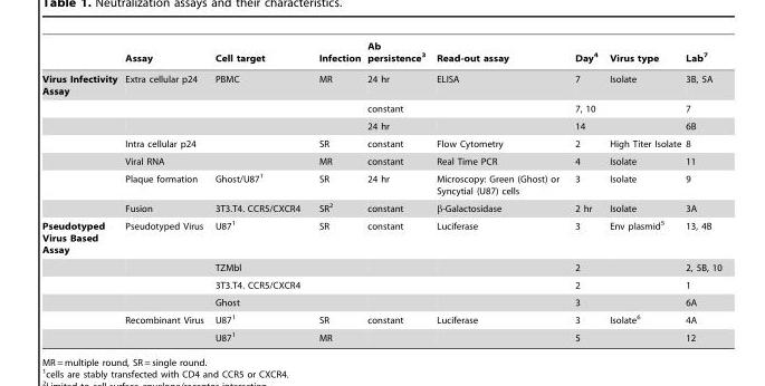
<table><thead><tr><td></td><td>Assay</td><td>Cell target</td><td>Infection</td><td>Ab persistence<sup>3</sup></td><td>Read-out assay</td><td>Day<sup>4</sup></td><td>Virus type</td><td>Lab<sup>7</sup></td></tr></thead><tbody><tr><td rowspan="7">Virus Infectivity Assay</td><td>Extra cellular p24</td><td>PBMC</td><td>MR</td><td>24 hr</td><td>ELISA</td><td>7</td><td>Isolate</td><td>3B, 5A</td></tr><tr><td></td><td></td><td></td><td>constant</td><td></td><td>7, 10</td><td></td><td>7</td></tr><tr><td></td><td></td><td></td><td>24 hr</td><td></td><td>14</td><td></td><td>6B</td></tr><tr><td>Intra cellular p24</td><td></td><td>SR</td><td>constant</td><td>Flow Cytometry</td><td>2</td><td>High Titer Isolate</td><td>8</td></tr><tr><td>Viral RNA</td><td></td><td>MR</td><td>constant</td><td>Real Time PCR</td><td>4</td><td>Isolate</td><td>11</td></tr><tr><td>Plaque formation</td><td>Ghost/U87<sup>1</sup></td><td>SR</td><td>24 hr</td><td>Microscopy: Green (Ghost) or Syncytial (U87) cells</td><td>3</td><td>Isolate</td><td>9</td></tr><tr><td>Fusion</td><td>3T3.T4. CCR5/CXCR4</td><td>SR<sup>2</sup></td><td>constant</td><td>β-Galactosidase</td><td>2 hr</td><td>Isolate</td><td>3A</td></tr><tr><td rowspan="6">Pseudotyped Virus Based Assay</td><td>Pseudotyped Virus</td><td>U87<sup>1</sup></td><td>SR</td><td>constant</td><td>Luciferase</td><td>3</td><td>Env plasmid<sup>5</sup></td><td>13, 4B</td></tr><tr><td></td><td>TZMbl</td><td></td><td></td><td></td><td>2</td><td></td><td>2, 5B, 10</td></tr><tr><td></td><td>3T3.T4. CCR5/CXCR4</td><td></td><td></td><td></td><td>2</td><td></td><td>1</td></tr><tr><td></td><td>Ghost</td><td></td><td></td><td></td><td>3</td><td></td><td>6A</td></tr><tr><td>Recombinant Virus</td><td>U87<sup>1</sup></td><td>SR</td><td>constant</td><td>Luciferase</td><td>3</td><td>Isolate<sup>6</sup></td><td>4A</td></tr><tr><td></td><td>U87<sup>1</sup></td><td>MR</td><td></td><td></td><td>5</td><td></td><td>12</td></tr></tbody></table>